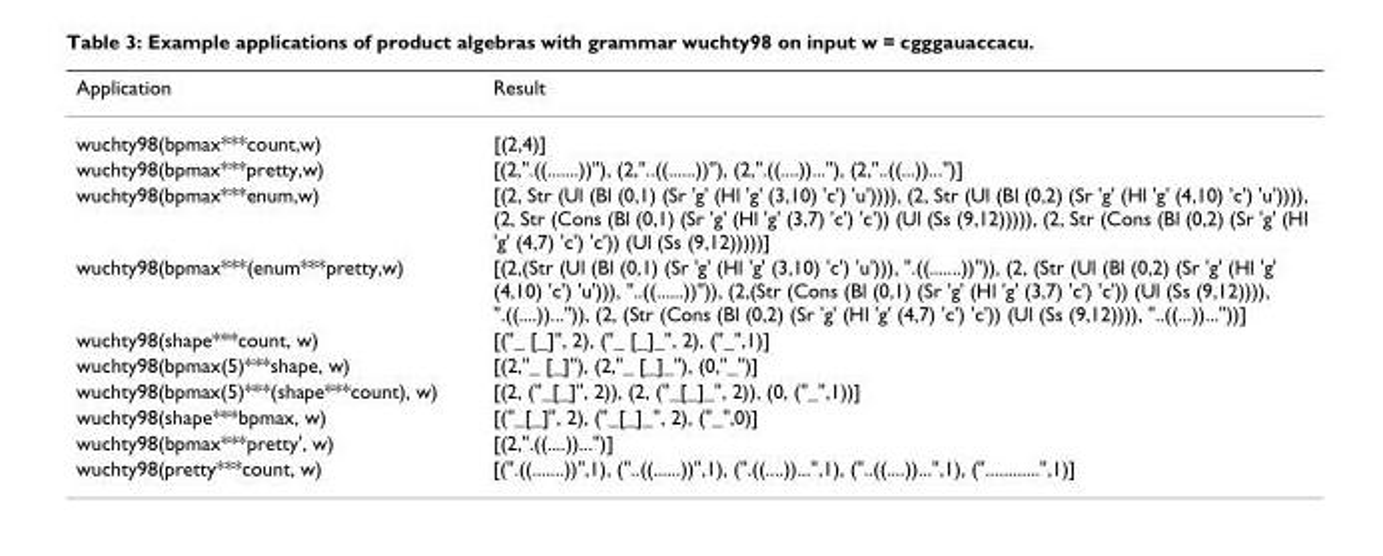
<table><thead><tr><td>Application</td><td>Result</td></tr></thead><tbody><tr><td>wuchty98(bpmax***count,w)</td><td>[(2,4)]</td></tr><tr><td>wuchty98(bpmax***pretty,w)</td><td>[(2,&quot;.((.......))&quot;), (2,&quot;..((......))&quot;), (2,&quot;.((....))...&quot;), (2,&quot;..((...))...&quot;)]</td></tr><tr><td>wuchty98(bpmax***enum,w)</td><td>[(2, Str (Ul (Bl (0,1) (Sr &#x27;g&#x27; (Hl &#x27;g&#x27; (3,10) &#x27;c&#x27;) &#x27;u&#x27;)))), (2, Str (Ul (Bl (0,2) (Sr &#x27;g&#x27; (Hl &#x27;g&#x27; (4,10) &#x27;c&#x27;) &#x27;u&#x27;)))), (2, Str (Cons (Bl (0,1) (Sr &#x27;g&#x27; (Hl &#x27;g&#x27; (3,7) &#x27;c&#x27;) &#x27;c&#x27;)) (Ul (Ss (9,12))))), (2, Str (Cons (Bl (0,2) (Sr &#x27;g&#x27; (Hl &#x27;g&#x27; (4,7) &#x27;c&#x27;) &#x27;c&#x27;)) (Ul (Ss (9,12)))))]</td></tr><tr><td>wuchty98(bpmax***(enum***pretty,w)</td><td>[(2,(Str (Ul (Bl (0,1) (Sr &#x27;g&#x27; (Hl &#x27;g&#x27; (3,10) &#x27;c&#x27;) &#x27;u&#x27;))), &quot;.((.......))&quot;)), (2, (Str (Ul (Bl (0,2) (Sr &#x27;g&#x27; (Hl &#x27;g&#x27; (4,10) &#x27;c&#x27;) &#x27;u&#x27;))), &quot;..((......))&quot;)), (2,(Str (Cons (Bl (0,1) (Sr &#x27;g&#x27; (Hl &#x27;g&#x27; (3,7) &#x27;c&#x27;) &#x27;c&#x27;)) (Ul (Ss (9,12)))), &quot;.((....))...&quot;)), (2, (Str (Cons (Bl (0,2) (Sr &#x27;g&#x27; (Hl &#x27;g&#x27; (4,7) &#x27;c&#x27;) &#x27;c&#x27;)) (Ul (Ss (9,12)))), &quot;..((...))...&quot;))]</td></tr><tr><td>wuchty98(shape***count, w)</td><td>[(&quot;_ [_]&quot;, 2), (&quot;_ [_]_&quot;, 2), (&quot;_&quot;,1)]</td></tr><tr><td>wuchty98(bpmax(5)***shape, w)</td><td>[(2,&quot;_ [_]&quot;), (2,&quot;_ [_]_&quot;), (0,&quot;_&quot;)]</td></tr><tr><td>wuchty98(bpmax(5)***(shape***count), w)</td><td>[(2, (&quot;_[_]&quot;, 2)), (2, (&quot;_[_]_&quot;, 2)), (0, (&quot;_&quot;,1))]</td></tr><tr><td>wuchty98(shape***bpmax, w)</td><td>[(&quot;_[_]&quot;, 2), (&quot;_[_]_&quot;, 2), (&quot;_&quot;,0)]</td></tr><tr><td>wuchty98(bpmax***pretty&#x27;, w)</td><td>[(2,&quot;.((....))...&quot;)]</td></tr><tr><td>wuchty98(pretty***count, w)</td><td>[(&quot;.((.......))&quot;,1), (&quot;..((......))&quot;,1), (&quot;.((....))...&quot;,1), (&quot;..((....))...&quot;,1), (&quot;............&quot;,1)]</td></tr></tbody></table>